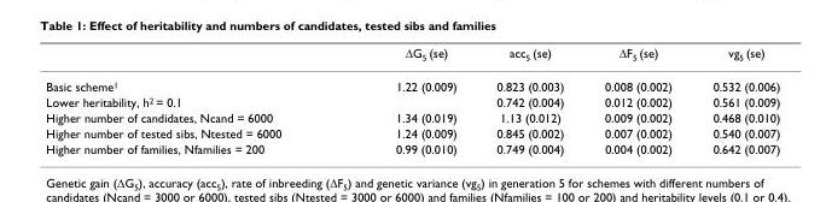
<table><thead><tr><td></td><td>ΔG<sub>5</sub> (se)</td><td>acc<sub>5</sub> (se)</td><td>ΔF<sub>5</sub> (se)</td><td>vg<sub>5</sub> (se)</td></tr></thead><tbody><tr><td>Basic scheme<sup>1</sup></td><td>1.22 (0.009)</td><td>0.823 (0.003)</td><td>0.008 (0.002)</td><td>0.532 (0.006)</td></tr><tr><td>Lower heritability, h<sup>2</sup> = 0.1</td><td></td><td>0.742 (0.004)</td><td>0.012 (0.002)</td><td>0.561 (0.009)</td></tr><tr><td>Higher number of candidates, Ncand = 6000</td><td>1.34 (0.019)</td><td>1.13 (0.012)</td><td>0.009 (0.002)</td><td>0.468 (0.010)</td></tr><tr><td>Higher number of tested sibs, Ntested = 6000</td><td>1.24 (0.009)</td><td>0.845 (0.002)</td><td>0.007 (0.002)</td><td>0.540 (0.007)</td></tr><tr><td>Higher number of families, Nfamilies = 200</td><td>0.99 (0.010)</td><td>0.749 (0.004)</td><td>0.004 (0.002)</td><td>0.642 (0.007)</td></tr></tbody></table>